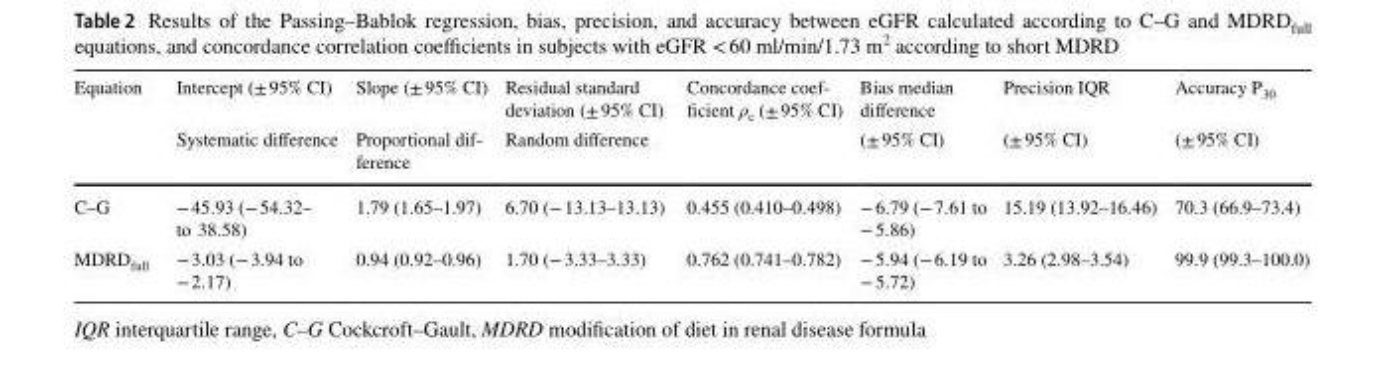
<table><thead><tr><td rowspan="2">Equation</td><td rowspan="2">Intercept (± 95% CI) Systematic difference</td><td rowspan="2">Slope (± 95% CI) Proportional dif- ference</td><td rowspan="2">Residual standard deviation (± 95% CI) Random difference</td><td rowspan="2">Concordance coef- ficient ρc (± 95% CI)</td><td rowspan="2">Bias median difference (± 95% CI)</td><td rowspan="2">Precision IQR (± 95% CI)</td><td rowspan="2">Accuracy P<sub>30</sub> (± 95% CI)</td></tr><tr></tr></thead><tbody><tr><td>C–G</td><td>− 45.93 (− 54.32– to 38.58)</td><td>1.79 (1.65–1.97)</td><td>6.70 (− 13.13–13.13)</td><td>0.455 (0.410–0.498)</td><td>− 6.79 (− 7.61 to − 5.86)</td><td>15.19 (13.92–16.46)</td><td>70.3 (66.9–73.4)</td></tr><tr><td>MDRD<sub>full</sub></td><td>− 3.03 (− 3.94 to − 2.17)</td><td>0.94 (0.92–0.96)</td><td>1.70 (− 3.33–3.33)</td><td>0.762 (0.741–0.782)</td><td>− 5.94 (− 6.19 to − 5.72)</td><td>3.26 (2.98–3.54)</td><td>99.9 (99.3–100.0)</td></tr></tbody></table>